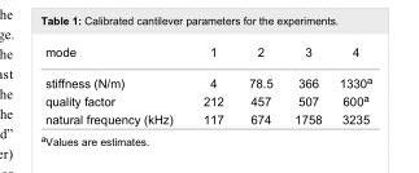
<table><tbody><tr><td>mode</td><td>1</td><td>2</td><td>3</td><td>4</td></tr><tr><td>stiffness (N/m)</td><td>4</td><td>78.5</td><td>366</td><td>1330<sup>a</sup></td></tr><tr><td>quality factor</td><td>212</td><td>457</td><td>507</td><td>600<sup>a</sup></td></tr><tr><td>natural frequency (kHz)</td><td>117</td><td>674</td><td>1758</td><td>3235</td></tr></tbody></table>